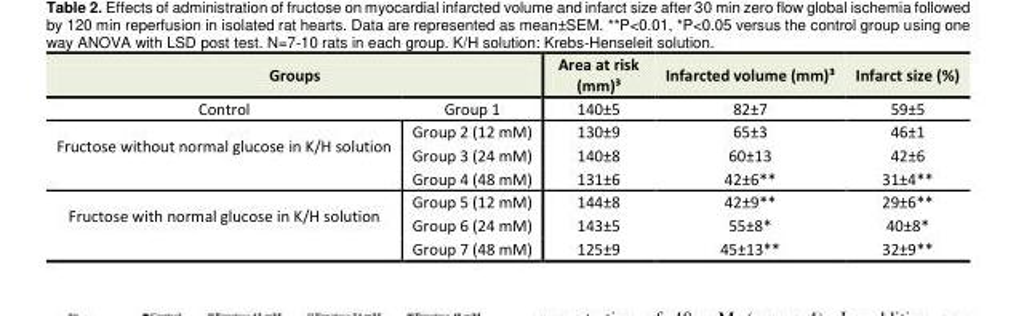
<table><tbody><tr><td colspan="2">Groups</td><td>Area at risk (mm)³</td><td>Infarcted volume (mm)³</td><td>Infarct size (%)</td></tr><tr><td>Control</td><td>Group 1</td><td>140±5</td><td>82±7</td><td>59±5</td></tr><tr><td rowspan="3">Fructose without normal glucose in K/H solution</td><td>Group 2 (12 mM)</td><td>130±9</td><td>65±3</td><td>46±1</td></tr><tr><td>Group 3 (24 mM)</td><td>140±8</td><td>60±13</td><td>42±6</td></tr><tr><td>Group 4 (48 mM)</td><td>131±6</td><td>42±6**</td><td>31±4**</td></tr><tr><td rowspan="3">Fructose with normal glucose in K/H solution</td><td>Group 5 (12 mM)</td><td>144±8</td><td>42±9**</td><td>29±6**</td></tr><tr><td>Group 6 (24 mM)</td><td>143±5</td><td>55±8*</td><td>40±8*</td></tr><tr><td>Group 7 (48 mM)</td><td>125±9</td><td>45±13**</td><td>32±9**</td></tr></tbody></table>